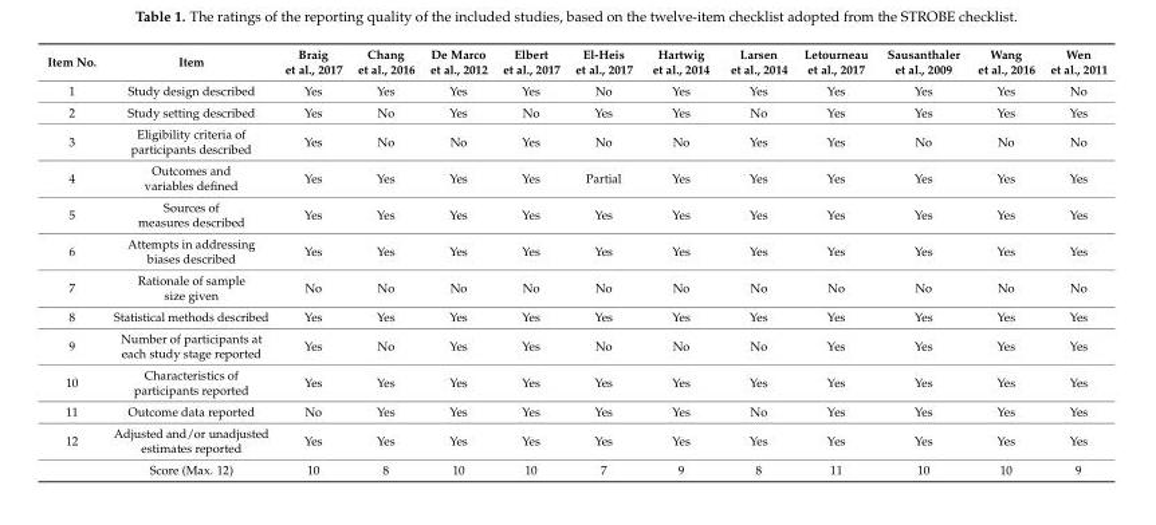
<table><thead><tr><td>Item No.</td><td>Item</td><td>Braig et al., 2017</td><td>Chang et al., 2016</td><td>De Marco et al., 2012</td><td>Elbert et al., 2017</td><td>El-Heis et al., 2017</td><td>Hartwig et al., 2014</td><td>Larsen et al., 2014</td><td>Letourneau et al., 2017</td><td>Sausanthaler et al., 2009</td><td>Wang et al., 2016</td><td>Wen et al., 2011</td></tr></thead><tbody><tr><td>1</td><td>Study design described</td><td>Yes</td><td>Yes</td><td>Yes</td><td>Yes</td><td>No</td><td>Yes</td><td>Yes</td><td>Yes</td><td>Yes</td><td>Yes</td><td>No</td></tr><tr><td>2</td><td>Study setting described</td><td>Yes</td><td>No</td><td>Yes</td><td>No</td><td>Yes</td><td>Yes</td><td>No</td><td>Yes</td><td>Yes</td><td>Yes</td><td>Yes</td></tr><tr><td>3</td><td>Eligibility criteria of participants described</td><td>Yes</td><td>No</td><td>No</td><td>Yes</td><td>No</td><td>No</td><td>Yes</td><td>Yes</td><td>No</td><td>No</td><td>No</td></tr><tr><td>4</td><td>Outcomes and variables defined</td><td>Yes</td><td>Yes</td><td>Yes</td><td>Yes</td><td>Partial</td><td>Yes</td><td>Yes</td><td>Yes</td><td>Yes</td><td>Yes</td><td>Yes</td></tr><tr><td>5</td><td>Sources of measures described</td><td>Yes</td><td>Yes</td><td>Yes</td><td>Yes</td><td>Yes</td><td>Yes</td><td>Yes</td><td>Yes</td><td>Yes</td><td>Yes</td><td>Yes</td></tr><tr><td>6</td><td>Attempts in addressing biases described</td><td>Yes</td><td>Yes</td><td>Yes</td><td>Yes</td><td>Yes</td><td>Yes</td><td>Yes</td><td>Yes</td><td>Yes</td><td>Yes</td><td>Yes</td></tr><tr><td>7</td><td>Rationale of sample size given</td><td>No</td><td>No</td><td>No</td><td>No</td><td>No</td><td>No</td><td>No</td><td>No</td><td>No</td><td>No</td><td>No</td></tr><tr><td>8</td><td>Statistical methods described</td><td>Yes</td><td>Yes</td><td>Yes</td><td>Yes</td><td>Yes</td><td>Yes</td><td>Yes</td><td>Yes</td><td>Yes</td><td>Yes</td><td>Yes</td></tr><tr><td>9</td><td>Number of participants at each study stage reported</td><td>Yes</td><td>No</td><td>Yes</td><td>Yes</td><td>No</td><td>No</td><td>No</td><td>Yes</td><td>Yes</td><td>Yes</td><td>Yes</td></tr><tr><td>10</td><td>Characteristics of participants reported</td><td>Yes</td><td>Yes</td><td>Yes</td><td>Yes</td><td>Yes</td><td>Yes</td><td>Yes</td><td>Yes</td><td>Yes</td><td>Yes</td><td>Yes</td></tr><tr><td>11</td><td>Outcome data reported</td><td>No</td><td>Yes</td><td>Yes</td><td>Yes</td><td>Yes</td><td>Yes</td><td>No</td><td>Yes</td><td>Yes</td><td>Yes</td><td>Yes</td></tr><tr><td rowspan="2">12</td><td>Adjusted and/or unadjusted estimates reported</td><td>Yes</td><td>Yes</td><td>Yes</td><td>Yes</td><td>Yes</td><td>Yes</td><td>Yes</td><td>Yes</td><td>Yes</td><td>Yes</td><td>Yes</td></tr><tr><td>Score (Max. 12)</td><td>10</td><td>8</td><td>10</td><td>10</td><td>7</td><td>9</td><td>8</td><td>11</td><td>10</td><td>10</td><td>9</td></tr></tbody></table>